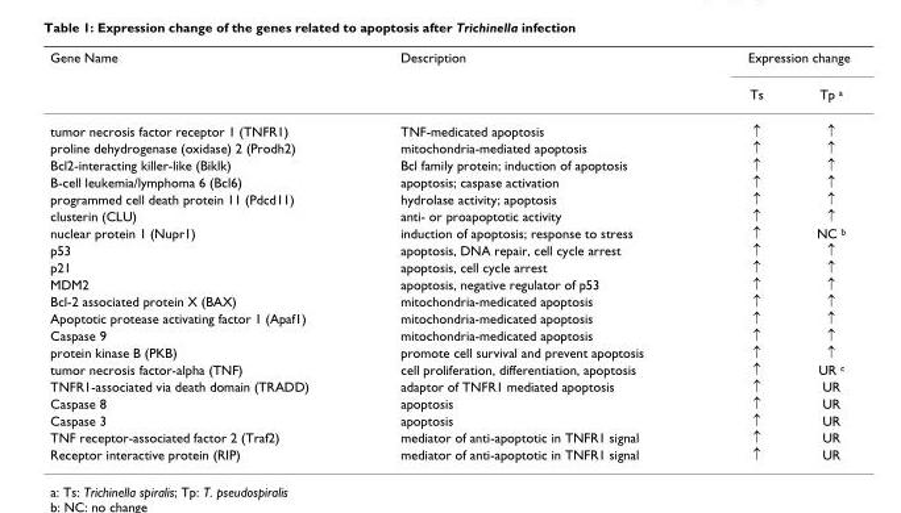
<table><thead><tr><td rowspan="2">Gene Name</td><td rowspan="2">Description</td><td colspan="2">Expression change</td></tr><tr><td>Ts</td><td>Tp <sup>a</sup></td></tr></thead><tbody><tr><td>tumor necrosis factor receptor 1 (TNFR1)</td><td>TNF-medicated apoptosis</td><td>↑</td><td>↑</td></tr><tr><td>proline dehydrogenase (oxidase) 2 (Prodh2)</td><td>mitochondria-mediated apoptosis</td><td>↑</td><td>↑</td></tr><tr><td>Bcl2-interacting killer-like (Biklk)</td><td>Bcl family protein; induction of apoptosis</td><td>↑</td><td>↑</td></tr><tr><td>B-cell leukemia/lymphoma 6 (Bcl6)</td><td>apoptosis; caspase activation</td><td>↑</td><td>↑</td></tr><tr><td>programmed cell death protein 11 (Pdcd11)</td><td>hydrolase activity; apoptosis</td><td>↑</td><td>↑</td></tr><tr><td>clusterin (CLU)</td><td>anti- or proapoptotic activity</td><td>↑</td><td>↑</td></tr><tr><td>nuclear protein 1 (Nupr1)</td><td>induction of apoptosis; response to stress</td><td>↑</td><td>NC <sup>b</sup></td></tr><tr><td>p53</td><td>apoptosis, DNA repair, cell cycle arrest</td><td>↑</td><td>↑</td></tr><tr><td>p21</td><td>apoptosis, cell cycle arrest</td><td>↑</td><td>↑</td></tr><tr><td>MDM2</td><td>apoptosis, negative regulator of p53</td><td>↑</td><td>↑</td></tr><tr><td>Bcl-2 associated protein X (BAX)</td><td>mitochondria-medicated apoptosis</td><td>↑</td><td>↑</td></tr><tr><td>Apoptotic protease activating factor 1 (Apaf1)</td><td>mitochondria-medicated apoptosis</td><td>↑</td><td>↑</td></tr><tr><td>Caspase 9</td><td>mitochondria-medicated apoptosis</td><td>↑</td><td>↑</td></tr><tr><td>protein kinase B (PKB)</td><td>promote cell survival and prevent apoptosis</td><td>↑</td><td>↑</td></tr><tr><td>tumor necrosis factor-alpha (TNF)</td><td>cell proliferation, differentiation, apoptosis</td><td>↑</td><td>UR <sup>c</sup></td></tr><tr><td>TNFR1-associated via death domain (TRADD)</td><td>adaptor of TNFR1 mediated apoptosis</td><td>↑</td><td>UR</td></tr><tr><td>Caspase 8</td><td>apoptosis</td><td>↑</td><td>UR</td></tr><tr><td>Caspase 3</td><td>apoptosis</td><td>↑</td><td>UR</td></tr><tr><td>TNF receptor-associated factor 2 (Traf2)</td><td>mediator of anti-apoptotic in TNFR1 signal</td><td>↑</td><td>UR</td></tr><tr><td>Receptor interactive protein (RIP)</td><td>mediator of anti-apoptotic in TNFR1 signal</td><td>↑</td><td>UR</td></tr></tbody></table>